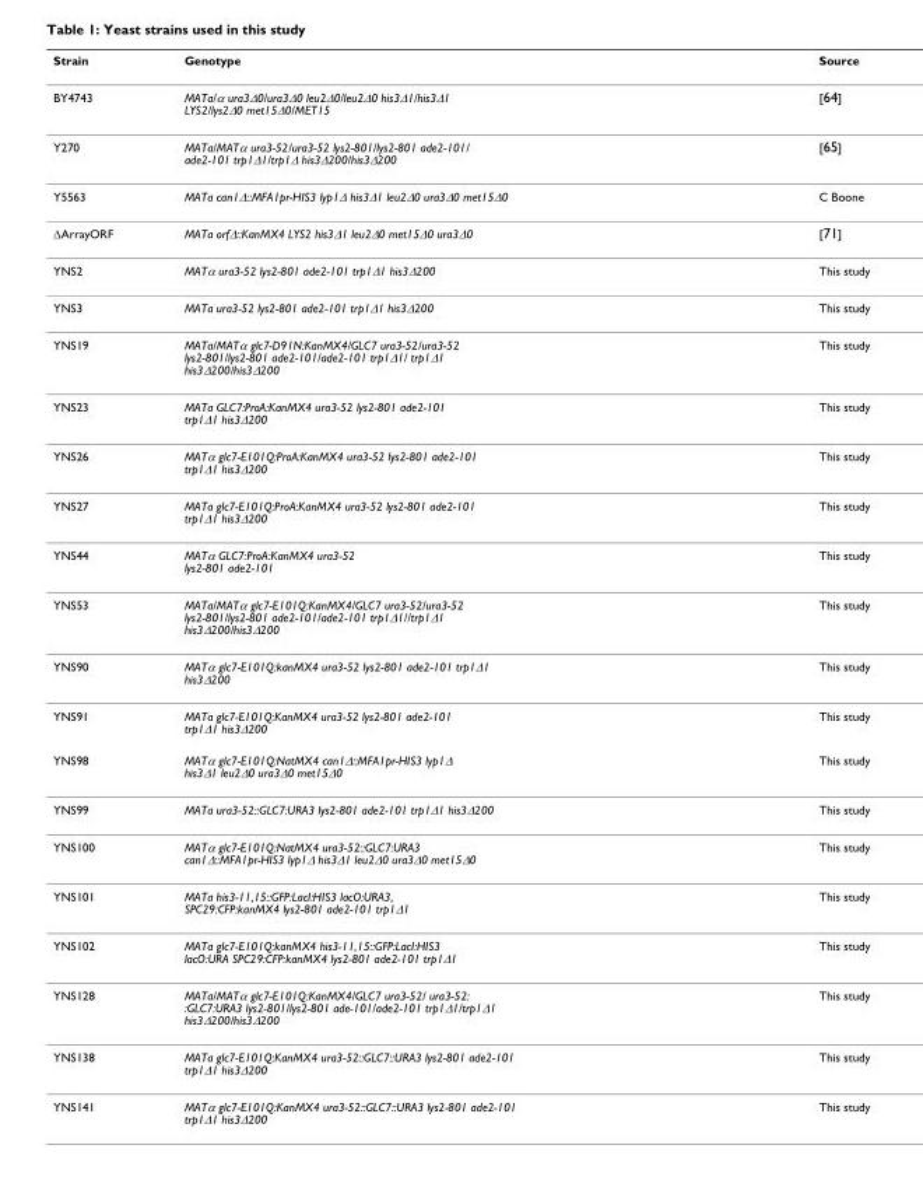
<table><thead><tr><td>Strain</td><td>Genotype</td><td>Source</td></tr></thead><tbody><tr><td>BY4743</td><td>MATa/α ura3Δ0/ura3Δ0 leu2Δ0/leu2Δ0 his3Δ1/his3Δ1 LYS2/lys2Δ0 met15Δ0/MET15</td><td>[64]</td></tr><tr><td>Y270</td><td>MATa/MATα ura3-52/ura3-52 lys2-801/lys2-801 ade2-101/ ade2-101 trp1Δ1/trp1Δ his3Δ200/his3Δ200</td><td>[65]</td></tr><tr><td>Y5563</td><td>MATa can1Δ::MFA1pr-HIS3 lyp1Δ his3Δ1 leu2Δ0 ura3Δ0 met15Δ0</td><td>C Boone</td></tr><tr><td>ΔArrayORF</td><td>MATa orfΔ::KanMX4 LYS2 his3Δ1 leu2Δ0 met15Δ0 ura3Δ0</td><td>[71]</td></tr><tr><td>YNS2</td><td>MATα ura3-52 lys2-801 ade2-101 trp1Δ1 his3Δ200</td><td>This study</td></tr><tr><td>YNS3</td><td>MATa ura3-52 lys2-801 ade2-101 trp1Δ1 his3Δ200</td><td>This study</td></tr><tr><td>YNS19</td><td>MATa/MATα glc7-D91N:KanMX4/GLC7 ura3-52/ura3-52 lys2-801/lys2-801 ade2-101/ade2-101 trp1Δ1/ trp1Δ1 his3Δ200/his3Δ200</td><td>This study</td></tr><tr><td>YNS23</td><td>MATa GLC7:ProA:KanMX4 ura3-52 lys2-801 ade2-101 trp1Δ1 his3Δ200</td><td>This study</td></tr><tr><td>YNS26</td><td>MATα glc7-E101Q:ProA:KanMX4 ura3-52 lys2-801 ade2-101 trp1Δ1 his3Δ200</td><td>This study</td></tr><tr><td>YNS27</td><td>MATa glc7-E101Q:ProA:KanMX4 ura3-52 lys2-801 ade2-101 trp1Δ1 his3Δ200</td><td>This study</td></tr><tr><td>YNS44</td><td>MATα GLC7:ProA:KanMX4 ura3-52 lys2-801 ade2-101</td><td>This study</td></tr><tr><td>YNS53</td><td>MATa/MATα glc7-E101Q:KanMX4/GLC7 ura3-52/ura3-52 lys2-801/lys2-801 ade2-101/ade2-101 trp1Δ1//trp1Δ1 his3Δ200/his3Δ200</td><td>This study</td></tr><tr><td>YNS90</td><td>MATα glc7-E101Q:kanMX4 ura3-52 lys2-801 ade2-101 trp1Δ1 his3Δ200</td><td>This study</td></tr><tr><td>YNS91</td><td>MATa glc7-E101Q:KanMX4 ura3-52 lys2-801 ade2-101 trp1Δ1 his3Δ200</td><td>This study</td></tr><tr><td>YNS98</td><td>MATα glc7-E101Q:NatMX4 can1Δ::MFA1pr-HIS3 lyp1Δ his3Δ1 leu2Δ0 ura3Δ0 met15Δ0</td><td>This study</td></tr><tr><td>YNS99</td><td>MATa ura3-52::GLC7:URA3 lys2-801 ade2-101 trp1Δ1 his3Δ200</td><td>This study</td></tr><tr><td>YNS100</td><td>MATα glc7-E101Q:NatMX4 ura3-52::GLC7:URA3 can1Δ::MFA1pr-HIS3 lyp1Δ his3Δ1 leu2Δ0 ura3Δ0 met15Δ0</td><td>This study</td></tr><tr><td>YNS101</td><td>MATa his3-11,15::GFP:LacI:HIS3 lacO:URA3, SPC29:CFP:kanMX4 lys2-801 ade2-101 trp1Δ1</td><td>This study</td></tr><tr><td>YNS102</td><td>MATa glc7-E101Q:kanMX4 his3-11,15::GFP:LacI:HIS3 lacO:URA SPC29:CFP:kanMX4 lys2-801 ade2-101 trp1Δ1</td><td>This study</td></tr><tr><td>YNS128</td><td>MATa/MATα glc7-E101Q:KanMX4/GLC7 ura3-52/ ura3-52: :GLC7:URA3 lys2-801/lys2-801 ade-101/ade2-101 trp1Δ1/trp1Δ1 his3Δ200/his3Δ200</td><td>This study</td></tr><tr><td>YNS138</td><td>MATa glc7-E101Q:KanMX4 ura3-52::GLC7::URA3 lys2-801 ade2-101 trp1Δ1 his3Δ200</td><td>This study</td></tr><tr><td>YNS141</td><td>MATα glc7-E101Q:KanMX4 ura3-52::GLC7::URA3 lys2-801 ade2-101 trp1Δ1 his3Δ200</td><td>This study</td></tr></tbody></table>